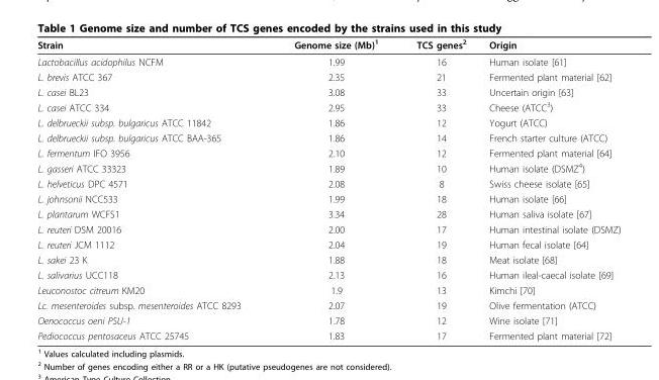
<table><thead><tr><td>Strain</td><td>Genome size (Mb)<sup>1</sup></td><td>TCS genes<sup>2</sup></td><td>Origin</td></tr></thead><tbody><tr><td>Lactobacillus acidophilus NCFM</td><td>1.99</td><td>16</td><td>Human isolate [61]</td></tr><tr><td>L. brevis ATCC 367</td><td>2.35</td><td>21</td><td>Fermented plant material [62]</td></tr><tr><td>L. casei BL23</td><td>3.08</td><td>33</td><td>Uncertain origin [63]</td></tr><tr><td>L. casei ATCC 334</td><td>2.95</td><td>33</td><td>Cheese (ATCC<sup>3</sup>)</td></tr><tr><td>L. delbrueckii subsp. bulgaricus ATCC 11842</td><td>1.86</td><td>12</td><td>Yogurt (ATCC)</td></tr><tr><td>L. delbrueckii subsp. bulgaricus ATCC BAA-365</td><td>1.86</td><td>14</td><td>French starter culture (ATCC)</td></tr><tr><td>L. fermentum IFO 3956</td><td>2.10</td><td>12</td><td>Fermented plant material [64]</td></tr><tr><td>L. gasseri ATCC 33323</td><td>1.89</td><td>10</td><td>Human isolate (DSMZ<sup>4</sup>)</td></tr><tr><td>L. helveticus DPC 4571</td><td>2.08</td><td>8</td><td>Swiss cheese isolate [65]</td></tr><tr><td>L. johnsonii NCC533</td><td>1.99</td><td>18</td><td>Human isolate [66]</td></tr><tr><td>L. plantarum WCFS1</td><td>3.34</td><td>28</td><td>Human saliva isolate [67]</td></tr><tr><td>L. reuteri DSM 20016</td><td>2.00</td><td>17</td><td>Human intestinal isolate (DSMZ)</td></tr><tr><td>L. reuteri JCM 1112</td><td>2.04</td><td>19</td><td>Human fecal isolate [64]</td></tr><tr><td>L. sakei 23 K</td><td>1.88</td><td>18</td><td>Meat isolate [68]</td></tr><tr><td>L. salivarius UCC118</td><td>2.13</td><td>16</td><td>Human ileal-caecal isolate [69]</td></tr><tr><td>Leuconostoc citreum KM20</td><td>1.9</td><td>13</td><td>Kimchi [70]</td></tr><tr><td>Lc. mesenteroides subsp. mesenteroides ATCC 8293</td><td>2.07</td><td>19</td><td>Olive fermentation (ATCC)</td></tr><tr><td>Oenococcus oeni PSU-1</td><td>1.78</td><td>12</td><td>Wine isolate [71]</td></tr><tr><td>Pediococcus pentosaceus ATCC 25745</td><td>1.83</td><td>17</td><td>Fermented plant material [72]</td></tr></tbody></table>